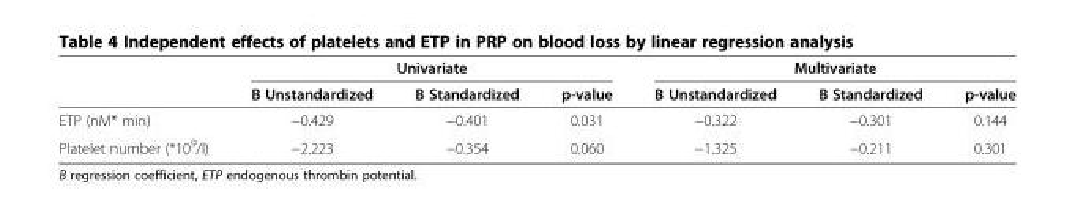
<table><thead><tr><td rowspan="2"></td><td colspan="3">Univariate</td><td colspan="3">Multivariate</td></tr><tr><td>B Unstandardized</td><td>B Standardized</td><td>p-value</td><td>B Unstandardized</td><td>B Standardized</td><td>p-value</td></tr></thead><tbody><tr><td>ETP (nM* min)</td><td>−0.429</td><td>−0.401</td><td>0.031</td><td>−0.322</td><td>−0.301</td><td>0.144</td></tr><tr><td>Platelet number (*10<sup>9</sup>/l)</td><td>−2.223</td><td>−0.354</td><td>0.060</td><td>−1.325</td><td>−0.211</td><td>0.301</td></tr></tbody></table>